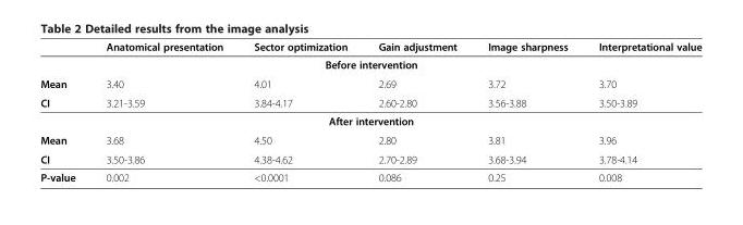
<table><thead><tr><td></td><td>Anatomical presentation</td><td>Sector optimization</td><td>Gain adjustment</td><td>Image sharpness</td><td>Interpretational value</td></tr></thead><tbody><tr><td colspan="6">Before intervention</td></tr><tr><td>Mean</td><td>3.40</td><td>4.01</td><td>2.69</td><td>3.72</td><td>3.70</td></tr><tr><td>CI</td><td>3.21-3.59</td><td>3.84-4.17</td><td>2.60-2.80</td><td>3.56-3.88</td><td>3.50-3.89</td></tr><tr><td colspan="6">After intervention</td></tr><tr><td>Mean</td><td>3.68</td><td>4.50</td><td>2.80</td><td>3.81</td><td>3.96</td></tr><tr><td>CI</td><td>3.50-3.86</td><td>4.38-4.62</td><td>2.70-2.89</td><td>3.68-3.94</td><td>3.78-4.14</td></tr><tr><td>P-value</td><td>0.002</td><td>&lt;0.0001</td><td>0.086</td><td>0.25</td><td>0.008</td></tr></tbody></table>